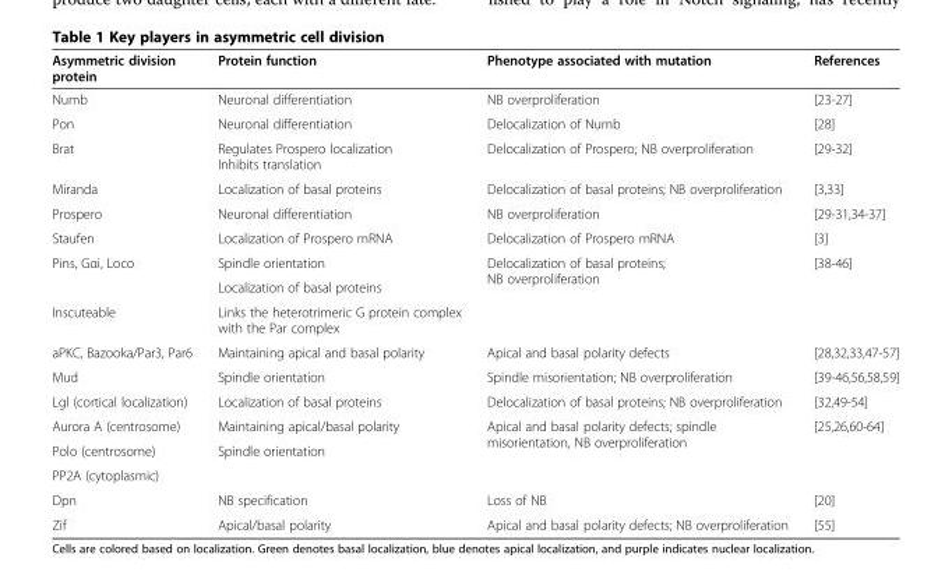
<table><thead><tr><td>Asymmetric division protein</td><td>Protein function</td><td>Phenotype associated with mutation</td><td>References</td></tr></thead><tbody><tr><td>Numb</td><td>Neuronal differentiation</td><td>NB overproliferation</td><td>[23-27]</td></tr><tr><td>Pon</td><td>Neuronal differentiation</td><td>Delocalization of Numb</td><td>[28]</td></tr><tr><td>Brat</td><td>Regulates Prospero localization Inhibits translation</td><td>Delocalization of Prospero; NB overproliferation</td><td>[29-32]</td></tr><tr><td>Miranda</td><td>Localization of basal proteins</td><td>Delocalization of basal proteins; NB overproliferation</td><td>[3,33]</td></tr><tr><td>Prospero</td><td>Neuronal differentiation</td><td>NB overproliferation</td><td>[29-31,34-37]</td></tr><tr><td>Staufen</td><td>Localization of Prospero mRNA</td><td>Delocalization of Prospero mRNA</td><td>[3]</td></tr><tr><td rowspan="2">Pins, Gαi, Loco</td><td>Spindle orientation</td><td rowspan="3">Delocalization of basal proteins; NB overproliferation</td><td rowspan="3">[38-46]</td></tr><tr><td>Localization of basal proteins</td></tr><tr><td>Inscuteable</td><td>Links the heterotrimeric G protein complex with the Par complex</td></tr><tr><td>aPKC, Bazooka/Par3, Par6</td><td>Maintaining apical and basal polarity</td><td>Apical and basal polarity defects</td><td>[28,32,33,47-57]</td></tr><tr><td>Mud</td><td>Spindle orientation</td><td>Spindle misorientation; NB overproliferation</td><td>[39-46,56,58,59]</td></tr><tr><td>Lgl (cortical localization)</td><td>Localization of basal proteins</td><td>Delocalization of basal proteins; NB overproliferation</td><td>[32,49-54]</td></tr><tr><td>Aurora A (centrosome)</td><td>Maintaining apical/basal polarity</td><td rowspan="3">Apical and basal polarity defects; spindle misorientation, NB overproliferation</td><td rowspan="3">[25,26,60-64]</td></tr><tr><td>Polo (centrosome)</td><td rowspan="2">Spindle orientation</td></tr><tr><td>PP2A (cytoplasmic)</td></tr><tr><td>Dpn</td><td>NB specification</td><td>Loss of NB</td><td>[20]</td></tr><tr><td>Zif</td><td>Apical/basal polarity</td><td>Apical and basal polarity defects; NB overproliferation</td><td>[55]</td></tr></tbody></table>